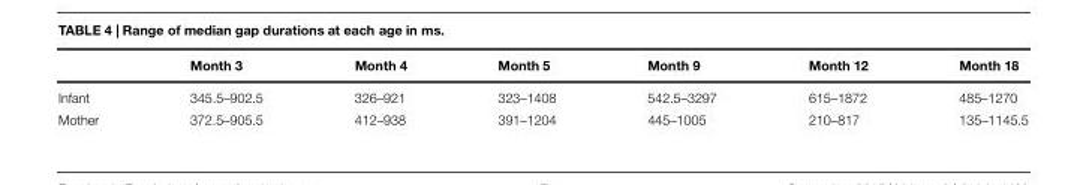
<table><thead><tr><td></td><td>Month 3</td><td>Month 4</td><td>Month 5</td><td>Month 9</td><td>Month 12</td><td>Month 18</td></tr></thead><tbody><tr><td>Infant</td><td>345.5–902.5</td><td>326–921</td><td>323–1408</td><td>542.5–3297</td><td>615–1872</td><td>485–1270</td></tr><tr><td>Mother</td><td>372.5–905.5</td><td>412–938</td><td>391–1204</td><td>445–1005</td><td>210–817</td><td>135–1145.5</td></tr></tbody></table>